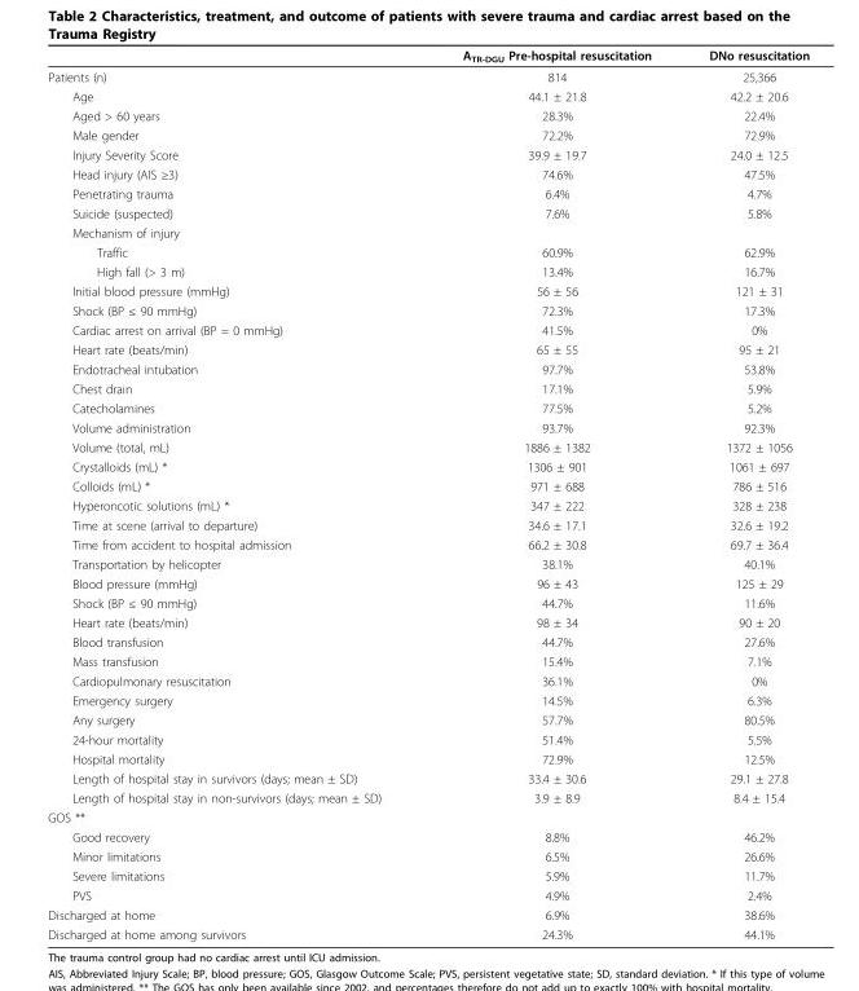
<table><thead><tr><td></td><td>A<sub>TR-DGU</sub> Pre-hospital resuscitation</td><td>DNo resuscitation</td></tr></thead><tbody><tr><td>Patients (n)</td><td>814</td><td>25,366</td></tr><tr><td>Age</td><td>44.1 ± 21.8</td><td>42.2 ± 20.6</td></tr><tr><td>Aged &gt; 60 years</td><td>28.3%</td><td>22.4%</td></tr><tr><td>Male gender</td><td>72.2%</td><td>72.9%</td></tr><tr><td>Injury Severity Score</td><td>39.9 ± 19.7</td><td>24.0 ± 12.5</td></tr><tr><td>Head injury (AIS ≥3)</td><td>74.6%</td><td>47.5%</td></tr><tr><td>Penetrating trauma</td><td>6.4%</td><td>4.7%</td></tr><tr><td>Suicide (suspected)</td><td>7.6%</td><td>5.8%</td></tr><tr><td colspan="3">Mechanism of injury</td></tr><tr><td>Traffic</td><td>60.9%</td><td>62.9%</td></tr><tr><td>High fall (&gt; 3 m)</td><td>13.4%</td><td>16.7%</td></tr><tr><td>Initial blood pressure (mmHg)</td><td>56 ± 56</td><td>121 ± 31</td></tr><tr><td>Shock (BP ≤ 90 mmHg)</td><td>72.3%</td><td>17.3%</td></tr><tr><td>Cardiac arrest on arrival (BP = 0 mmHg)</td><td>41.5%</td><td>0%</td></tr><tr><td>Heart rate (beats/min)</td><td>65 ± 55</td><td>95 ± 21</td></tr><tr><td>Endotracheal intubation</td><td>97.7%</td><td>53.8%</td></tr><tr><td>Chest drain</td><td>17.1%</td><td>5.9%</td></tr><tr><td>Catecholamines</td><td>77.5%</td><td>5.2%</td></tr><tr><td>Volume administration</td><td>93.7%</td><td>92.3%</td></tr><tr><td>Volume (total, mL)</td><td>1886 ± 1382</td><td>1372 ± 1056</td></tr><tr><td>Crystalloids (mL) *</td><td>1306 ± 901</td><td>1061 ± 697</td></tr><tr><td>Colloids (mL) *</td><td>971 ± 688</td><td>786 ± 516</td></tr><tr><td>Hyperoncotic solutions (mL) *</td><td>347 ± 222</td><td>328 ± 238</td></tr><tr><td>Time at scene (arrival to departure)</td><td>34.6 ± 17.1</td><td>32.6 ± 19.2</td></tr><tr><td>Time from accident to hospital admission</td><td>66.2 ± 30.8</td><td>69.7 ± 36.4</td></tr><tr><td>Transportation by helicopter</td><td>38.1%</td><td>40.1%</td></tr><tr><td>Blood pressure (mmHg)</td><td>96 ± 43</td><td>125 ± 29</td></tr><tr><td>Shock (BP ≤ 90 mmHg)</td><td>44.7%</td><td>11.6%</td></tr><tr><td>Heart rate (beats/min)</td><td>98 ± 34</td><td>90 ± 20</td></tr><tr><td>Blood transfusion</td><td>44.7%</td><td>27.6%</td></tr><tr><td>Mass transfusion</td><td>15.4%</td><td>7.1%</td></tr><tr><td>Cardiopulmonary resuscitation</td><td>36.1%</td><td>0%</td></tr><tr><td>Emergency surgery</td><td>14.5%</td><td>6.3%</td></tr><tr><td>Any surgery</td><td>57.7%</td><td>80.5%</td></tr><tr><td>24-hour mortality</td><td>51.4%</td><td>5.5%</td></tr><tr><td>Hospital mortality</td><td>72.9%</td><td>12.5%</td></tr><tr><td>Length of hospital stay in survivors (days; mean ± SD)</td><td>33.4 ± 30.6</td><td>29.1 ± 27.8</td></tr><tr><td>Length of hospital stay in non-survivors (days; mean ± SD)</td><td>3.9 ± 8.9</td><td>8.4 ± 15.4</td></tr><tr><td colspan="3">GOS **</td></tr><tr><td>Good recovery</td><td>8.8%</td><td>46.2%</td></tr><tr><td>Minor limitations</td><td>6.5%</td><td>26.6%</td></tr><tr><td>Severe limitations</td><td>5.9%</td><td>11.7%</td></tr><tr><td>PVS</td><td>4.9%</td><td>2.4%</td></tr><tr><td>Discharged at home</td><td>6.9%</td><td>38.6%</td></tr><tr><td>Discharged at home among survivors</td><td>24.3%</td><td>44.1%</td></tr></tbody></table>